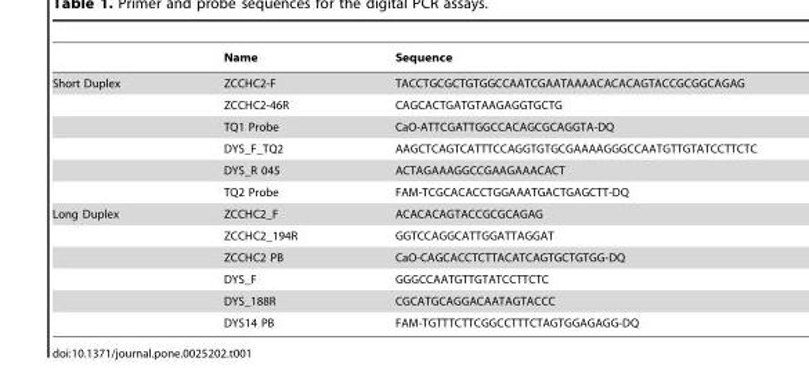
<table><thead><tr><td></td><td>Name</td><td>Sequence</td></tr></thead><tbody><tr><td rowspan="6">Short Duplex</td><td>ZCCHC2-F</td><td>TACCTGCGCTGTGGCCAATCGAATAAAACACACAGTACCGCGGCAGAG</td></tr><tr><td>ZCCHC2-46R</td><td>CAGCACTGATGTAAGAGGTGCTG</td></tr><tr><td>TQ1 Probe</td><td>CaO-ATTCGATTGGCCACAGCGCAGGTA-DQ</td></tr><tr><td>DYS_F_TQ2</td><td>AAGCTCAGTCATTTCCAGGTGTGCGAAAAGGGCCAATGTTGTATCCTTCTC</td></tr><tr><td>DYS_R 045</td><td>ACTAGAAAGGCCGAAGAAACACT</td></tr><tr><td>TQ2 Probe</td><td>FAM-TCGCACACCTGGAAATGACTGAGCTT-DQ</td></tr><tr><td rowspan="6">Long Duplex</td><td>ZCCHC2_F</td><td>ACACACAGTACCGCGCAGAG</td></tr><tr><td>ZCCHC2_194R</td><td>GGTCCAGGCATTGGATTAGGAT</td></tr><tr><td>ZCCHC2 PB</td><td>CaO-CAGCACCTCTTACATCAGTGCTGTGG-DQ</td></tr><tr><td>DYS_F</td><td>GGGCCAATGTTGTATCCTTCTC</td></tr><tr><td>DYS_188R</td><td>CGCATGCAGGACAATAGTACCC</td></tr><tr><td>DYS14 PB</td><td>FAM-TGTTTCTTCGGCCTTTCTAGTGGAGAGG-DQ</td></tr></tbody></table>